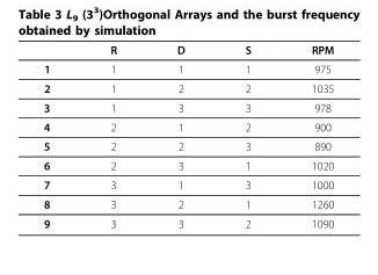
<table><thead><tr><td></td><td>R</td><td>D</td><td>S</td><td>RPM</td></tr></thead><tbody><tr><td>1</td><td>1</td><td>1</td><td>1</td><td>975</td></tr><tr><td>2</td><td>1</td><td>2</td><td>2</td><td>1035</td></tr><tr><td>3</td><td>1</td><td>3</td><td>3</td><td>978</td></tr><tr><td>4</td><td>2</td><td>1</td><td>2</td><td>900</td></tr><tr><td>5</td><td>2</td><td>2</td><td>3</td><td>890</td></tr><tr><td>6</td><td>2</td><td>3</td><td>1</td><td>1020</td></tr><tr><td>7</td><td>3</td><td>1</td><td>3</td><td>1000</td></tr><tr><td>8</td><td>3</td><td>2</td><td>1</td><td>1260</td></tr><tr><td>9</td><td>3</td><td>3</td><td>2</td><td>1090</td></tr></tbody></table>